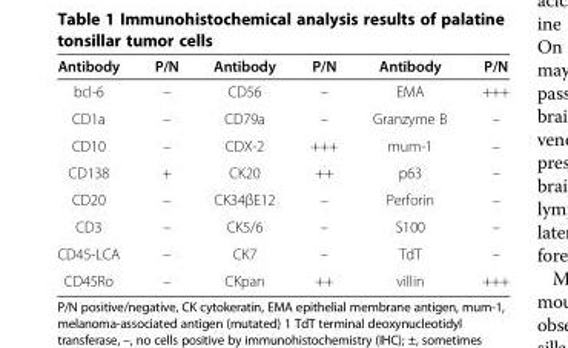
<table><thead><tr><td>Antibody</td><td>P/N</td><td>Antibody</td><td>P/N</td><td>Antibody</td><td>P/N</td></tr></thead><tbody><tr><td>bcl-6</td><td>–</td><td>CD56</td><td>–</td><td>EMA</td><td>+++</td></tr><tr><td>CD1a</td><td>–</td><td>CD79a</td><td>–</td><td>Granzyme B</td><td>–</td></tr><tr><td>CD10</td><td>–</td><td>CDX-2</td><td>+++</td><td>mum-1</td><td>–</td></tr><tr><td>CD138</td><td>+</td><td>CK20</td><td>++</td><td>p63</td><td>–</td></tr><tr><td>CD20</td><td>–</td><td>CK34βE12</td><td>–</td><td>Perforin</td><td>–</td></tr><tr><td>CD3</td><td>–</td><td>CK5/6</td><td>–</td><td>S100</td><td>–</td></tr><tr><td>CD45-LCA</td><td>–</td><td>CK7</td><td>–</td><td>TdT</td><td>–</td></tr><tr><td>CD45Ro</td><td>–</td><td>CKpan</td><td>++</td><td>villin</td><td>+++</td></tr></tbody></table>